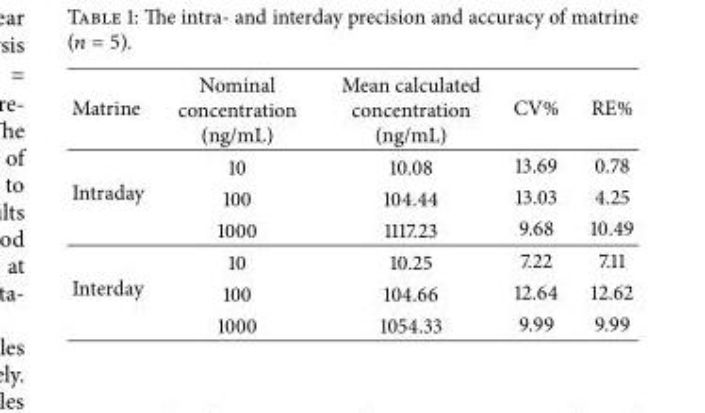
<table><thead><tr><td>Matrine</td><td>Nominal concentration (ng/mL)</td><td>Mean calculated concentration (ng/mL)</td><td>CV%</td><td>RE%</td></tr></thead><tbody><tr><td rowspan="3">Intraday</td><td>10</td><td>10.08</td><td>13.69</td><td>0.78</td></tr><tr><td>100</td><td>104.44</td><td>13.03</td><td>4.25</td></tr><tr><td>1000</td><td>1117.23</td><td>9.68</td><td>10.49</td></tr><tr><td rowspan="3">Interday</td><td>10</td><td>10.25</td><td>7.22</td><td>7.11</td></tr><tr><td>100</td><td>104.66</td><td>12.64</td><td>12.62</td></tr><tr><td>1000</td><td>1054.33</td><td>9.99</td><td>9.99</td></tr></tbody></table>